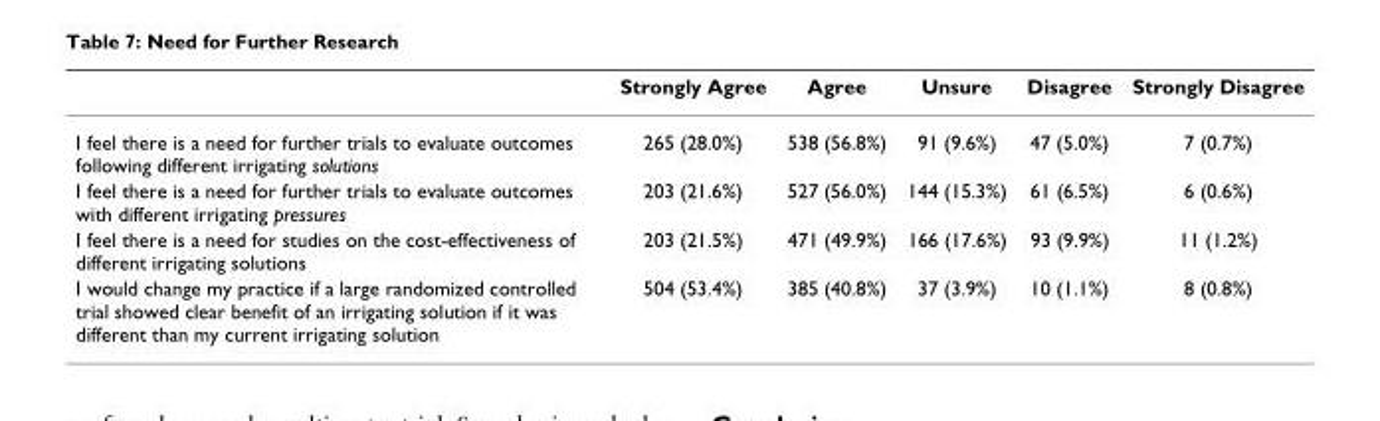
<table><thead><tr><td></td><td>Strongly Agree</td><td>Agree</td><td>Unsure</td><td>Disagree</td><td>Strongly Disagree</td></tr></thead><tbody><tr><td>I feel there is a need for further trials to evaluate outcomes following different irrigating solutions</td><td>265 (28.0%)</td><td>538 (56.8%)</td><td>91 (9.6%)</td><td>47 (5.0%)</td><td>7 (0.7%)</td></tr><tr><td>I feel there is a need for further trials to evaluate outcomes with different irrigating pressures</td><td>203 (21.6%)</td><td>527 (56.0%)</td><td>144 (15.3%)</td><td>61 (6.5%)</td><td>6 (0.6%)</td></tr><tr><td>I feel there is a need for studies on the cost-effectiveness of different irrigating solutions</td><td>203 (21.5%)</td><td>471 (49.9%)</td><td>166 (17.6%)</td><td>93 (9.9%)</td><td>11 (1.2%)</td></tr><tr><td>I would change my practice if a large randomized controlled trial showed clear benefit of an irrigating solution if it was different than my current irrigating solution</td><td>504 (53.4%)</td><td>385 (40.8%)</td><td>37 (3.9%)</td><td>10 (1.1%)</td><td>8 (0.8%)</td></tr></tbody></table>